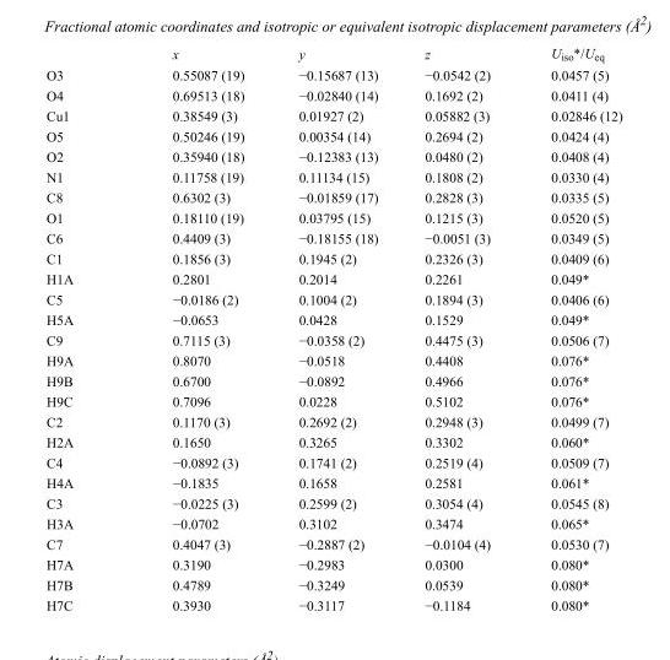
<table><thead><tr><td></td><td>x</td><td>y</td><td>z</td><td>U<sub>iso</sub>*/U<sub>eq</sub></td></tr></thead><tbody><tr><td>O3</td><td>0.55087 (19)</td><td>−0.15687 (13)</td><td>−0.0542 (2)</td><td>0.0457 (5)</td></tr><tr><td>O4</td><td>0.69513 (18)</td><td>−0.02840 (14)</td><td>0.1692 (2)</td><td>0.0411 (4)</td></tr><tr><td>Cu1</td><td>0.38549 (3)</td><td>0.01927 (2)</td><td>0.05882 (3)</td><td>0.02846 (12)</td></tr><tr><td>O5</td><td>0.50246 (19)</td><td>0.00354 (14)</td><td>0.2694 (2)</td><td>0.0424 (4)</td></tr><tr><td>O2</td><td>0.35940 (18)</td><td>−0.12383 (13)</td><td>0.0480 (2)</td><td>0.0408 (4)</td></tr><tr><td>N1</td><td>0.11758 (19)</td><td>0.11134 (15)</td><td>0.1808 (2)</td><td>0.0330 (4)</td></tr><tr><td>C8</td><td>0.6302 (3)</td><td>−0.01859 (17)</td><td>0.2828 (3)</td><td>0.0335 (5)</td></tr><tr><td>O1</td><td>0.18110 (19)</td><td>0.03795 (15)</td><td>0.1215 (3)</td><td>0.0520 (5)</td></tr><tr><td>C6</td><td>0.4409 (3)</td><td>−0.18155 (18)</td><td>−0.0051 (3)</td><td>0.0349 (5)</td></tr><tr><td>C1</td><td>0.1856 (3)</td><td>0.1945 (2)</td><td>0.2326 (3)</td><td>0.0409 (6)</td></tr><tr><td>H1A</td><td>0.2801</td><td>0.2014</td><td>0.2261</td><td>0.049*</td></tr><tr><td>C5</td><td>−0.0186 (2)</td><td>0.1004 (2)</td><td>0.1894 (3)</td><td>0.0406 (6)</td></tr><tr><td>H5A</td><td>−0.0653</td><td>0.0428</td><td>0.1529</td><td>0.049*</td></tr><tr><td>C9</td><td>0.7115 (3)</td><td>−0.0358 (2)</td><td>0.4475 (3)</td><td>0.0506 (7)</td></tr><tr><td>H9A</td><td>0.8070</td><td>−0.0518</td><td>0.4408</td><td>0.076*</td></tr><tr><td>H9B</td><td>0.6700</td><td>−0.0892</td><td>0.4966</td><td>0.076*</td></tr><tr><td>H9C</td><td>0.7096</td><td>0.0228</td><td>0.5102</td><td>0.076*</td></tr><tr><td>C2</td><td>0.1170 (3)</td><td>0.2692 (2)</td><td>0.2948 (3)</td><td>0.0499 (7)</td></tr><tr><td>H2A</td><td>0.1650</td><td>0.3265</td><td>0.3302</td><td>0.060*</td></tr><tr><td>C4</td><td>−0.0892 (3)</td><td>0.1741 (2)</td><td>0.2519 (4)</td><td>0.0509 (7)</td></tr><tr><td>H4A</td><td>−0.1835</td><td>0.1658</td><td>0.2581</td><td>0.061*</td></tr><tr><td>C3</td><td>−0.0225 (3)</td><td>0.2599 (2)</td><td>0.3054 (4)</td><td>0.0545 (8)</td></tr><tr><td>H3A</td><td>−0.0702</td><td>0.3102</td><td>0.3474</td><td>0.065*</td></tr><tr><td>C7</td><td>0.4047 (3)</td><td>−0.2887 (2)</td><td>−0.0104 (4)</td><td>0.0530 (7)</td></tr><tr><td>H7A</td><td>0.3190</td><td>−0.2983</td><td>0.0300</td><td>0.080*</td></tr><tr><td>H7B</td><td>0.4789</td><td>−0.3249</td><td>0.0539</td><td>0.080*</td></tr><tr><td>H7C</td><td>0.3930</td><td>−0.3117</td><td>−0.1184</td><td>0.080*</td></tr></tbody></table>